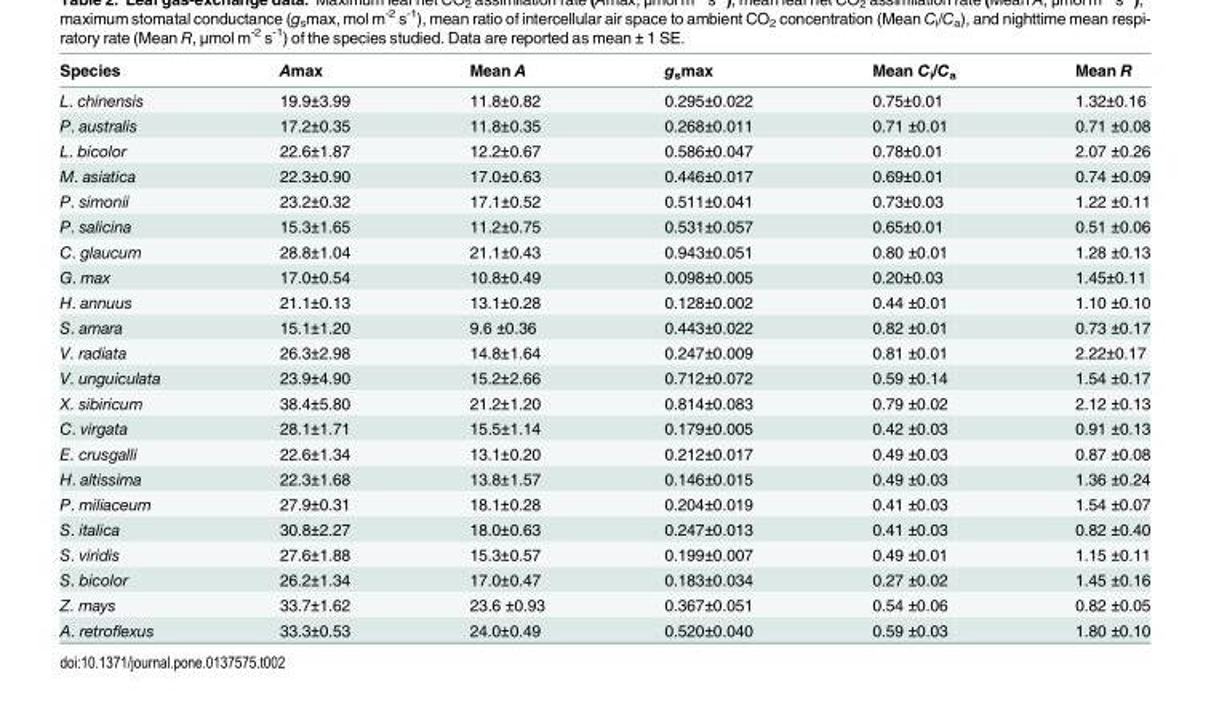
<table><thead><tr><td>Species</td><td>Amax</td><td>Mean A</td><td>g<sub>s</sub>max</td><td>Mean C<sub>i</sub>/C<sub>a</sub></td><td>Mean R</td></tr></thead><tbody><tr><td>L. chinensis</td><td>19.9±3.99</td><td>11.8±0.82</td><td>0.295±0.022</td><td>0.75±0.01</td><td>1.32±0.16</td></tr><tr><td>P. australis</td><td>17.2±0.35</td><td>11.8±0.35</td><td>0.268±0.011</td><td>0.71 ±0.01</td><td>0.71 ±0.08</td></tr><tr><td>L. bicolor</td><td>22.6±1.87</td><td>12.2±0.67</td><td>0.586±0.047</td><td>0.78±0.01</td><td>2.07 ±0.26</td></tr><tr><td>M. asiatica</td><td>22.3±0.90</td><td>17.0±0.63</td><td>0.446±0.017</td><td>0.69±0.01</td><td>0.74 ±0.09</td></tr><tr><td>P. simonii</td><td>23.2±0.32</td><td>17.1±0.52</td><td>0.511±0.041</td><td>0.73±0.03</td><td>1.22 ±0.11</td></tr><tr><td>P. salicina</td><td>15.3±1.65</td><td>11.2±0.75</td><td>0.531±0.057</td><td>0.65±0.01</td><td>0.51 ±0.06</td></tr><tr><td>C. glaucum</td><td>28.8±1.04</td><td>21.1±0.43</td><td>0.943±0.051</td><td>0.80 ±0.01</td><td>1.28 ±0.13</td></tr><tr><td>G. max</td><td>17.0±0.54</td><td>10.8±0.49</td><td>0.098±0.005</td><td>0.20±0.03</td><td>1.45±0.11</td></tr><tr><td>H. annuus</td><td>21.1±0.13</td><td>13.1±0.28</td><td>0.128±0.002</td><td>0.44 ±0.01</td><td>1.10 ±0.10</td></tr><tr><td>S. amara</td><td>15.1±1.20</td><td>9.6 ±0.36</td><td>0.443±0.022</td><td>0.82 ±0.01</td><td>0.73 ±0.17</td></tr><tr><td>V. radiata</td><td>26.3±2.98</td><td>14.8±1.64</td><td>0.247±0.009</td><td>0.81 ±0.01</td><td>2.22±0.17</td></tr><tr><td>V. unguiculata</td><td>23.9±4.90</td><td>15.2±2.66</td><td>0.712±0.072</td><td>0.59 ±0.14</td><td>1.54 ±0.17</td></tr><tr><td>X. sibiricum</td><td>38.4±5.80</td><td>21.2±1.20</td><td>0.814±0.083</td><td>0.79 ±0.02</td><td>2.12 ±0.13</td></tr><tr><td>C. virgata</td><td>28.1±1.71</td><td>15.5±1.14</td><td>0.179±0.005</td><td>0.42 ±0.03</td><td>0.91 ±0.13</td></tr><tr><td>E. crusgalli</td><td>22.6±1.34</td><td>13.1±0.20</td><td>0.212±0.017</td><td>0.49 ±0.03</td><td>0.87 ±0.08</td></tr><tr><td>H. altissima</td><td>22.3±1.68</td><td>13.8±1.57</td><td>0.146±0.015</td><td>0.49 ±0.03</td><td>1.36 ±0.24</td></tr><tr><td>P. miliaceum</td><td>27.9±0.31</td><td>18.1±0.28</td><td>0.204±0.019</td><td>0.41 ±0.03</td><td>1.54 ±0.07</td></tr><tr><td>S. italica</td><td>30.8±2.27</td><td>18.0±0.63</td><td>0.247±0.013</td><td>0.41 ±0.03</td><td>0.82 ±0.40</td></tr><tr><td>S. viridis</td><td>27.6±1.88</td><td>15.3±0.57</td><td>0.199±0.007</td><td>0.49 ±0.01</td><td>1.15 ±0.11</td></tr><tr><td>S. bicolor</td><td>26.2±1.34</td><td>17.0±0.47</td><td>0.183±0.034</td><td>0.27 ±0.02</td><td>1.45 ±0.16</td></tr><tr><td>Z. mays</td><td>33.7±1.62</td><td>23.6 ±0.93</td><td>0.367±0.051</td><td>0.54 ±0.06</td><td>0.82 ±0.05</td></tr><tr><td>A. retroflexus</td><td>33.3±0.53</td><td>24.0±0.49</td><td>0.520±0.040</td><td>0.59 ±0.03</td><td>1.80 ±0.10</td></tr></tbody></table>